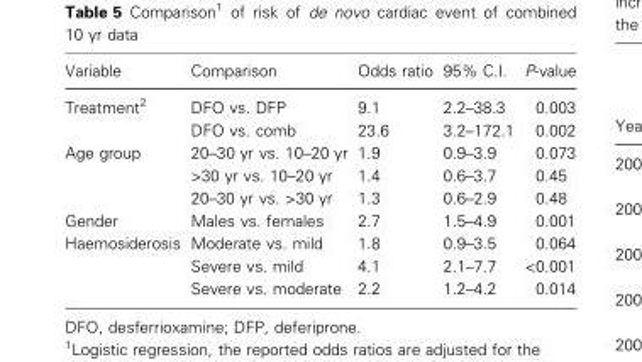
<table><thead><tr><td>Variable</td><td>Comparison</td><td>Odds ratio</td><td>95% C.I.</td><td>P-value</td></tr></thead><tbody><tr><td rowspan="2">Treatment<sup>2</sup></td><td>DFO vs. DFP</td><td>9.1</td><td>2.2–38.3</td><td>0.003</td></tr><tr><td>DFO vs. comb</td><td>23.6</td><td>3.2–172.1</td><td>0.002</td></tr><tr><td rowspan="3">Age group</td><td>20–30 yr vs. 10–20 yr</td><td>1.9</td><td>0.9–3.9</td><td>0.073</td></tr><tr><td>&gt;30 yr vs. 10–20 yr</td><td>1.4</td><td>0.6–3.7</td><td>0.45</td></tr><tr><td>20–30 yr vs. &gt;30 yr</td><td>1.3</td><td>0.6–2.9</td><td>0.48</td></tr><tr><td>Gender</td><td>Males vs. females</td><td>2.7</td><td>1.5–4.9</td><td>0.001</td></tr><tr><td rowspan="3">Haemosiderosis</td><td>Moderate vs. mild</td><td>1.8</td><td>0.9–3.5</td><td>0.064</td></tr><tr><td>Severe vs. mild</td><td>4.1</td><td>2.1–7.7</td><td>&lt;0.001</td></tr><tr><td>Severe vs. moderate</td><td>2.2</td><td>1.2–4.2</td><td>0.014</td></tr></tbody></table>